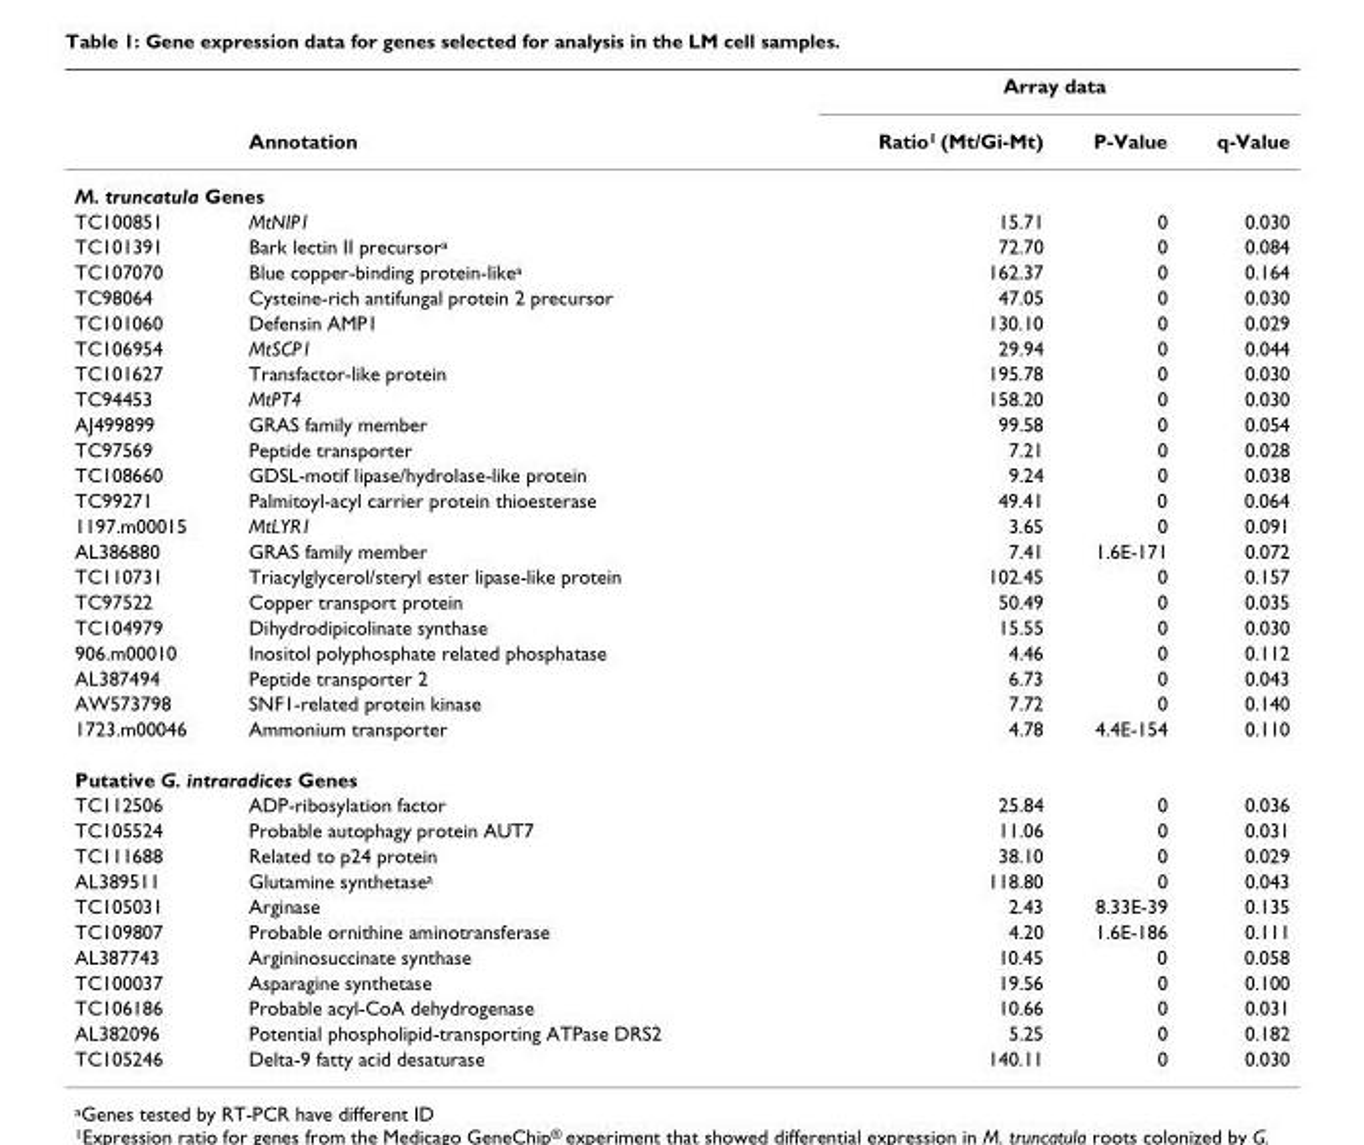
<table><thead><tr><td rowspan="2"></td><td rowspan="2">Annotation</td><td colspan="3">Array data</td></tr><tr><td>Ratio<sup>1</sup> (Mt/Gi-Mt)</td><td>P-Value</td><td>q-Value</td></tr></thead><tbody><tr><td colspan="5">M. truncatula Genes</td></tr><tr><td>TC100851</td><td>MtNIP1</td><td>15.71</td><td>0</td><td>0.030</td></tr><tr><td>TC101391</td><td>Bark lectin II precursor<sup>a</sup></td><td>72.70</td><td>0</td><td>0.084</td></tr><tr><td>TC107070</td><td>Blue copper-binding protein-like<sup>a</sup></td><td>162.37</td><td>0</td><td>0.164</td></tr><tr><td>TC98064</td><td>Cysteine-rich antifungal protein 2 precursor</td><td>47.05</td><td>0</td><td>0.030</td></tr><tr><td>TC101060</td><td>Defensin AMP1</td><td>130.10</td><td>0</td><td>0.029</td></tr><tr><td>TC106954</td><td>MtSCP1</td><td>29.94</td><td>0</td><td>0.044</td></tr><tr><td>TC101627</td><td>Transfactor-like protein</td><td>195.78</td><td>0</td><td>0.030</td></tr><tr><td>TC94453</td><td>MtPT4</td><td>158.20</td><td>0</td><td>0.030</td></tr><tr><td>AJ499899</td><td>GRAS family member</td><td>99.58</td><td>0</td><td>0.054</td></tr><tr><td>TC97569</td><td>Peptide transporter</td><td>7.21</td><td>0</td><td>0.028</td></tr><tr><td>TC108660</td><td>GDSL-motif lipase/hydrolase-like protein</td><td>9.24</td><td>0</td><td>0.038</td></tr><tr><td>TC99271</td><td>Palmitoyl-acyl carrier protein thioesterase</td><td>49.41</td><td>0</td><td>0.064</td></tr><tr><td>1197.m00015</td><td>MtLYR1</td><td>3.65</td><td>0</td><td>0.091</td></tr><tr><td>AL386880</td><td>GRAS family member</td><td>7.41</td><td>1.6E-171</td><td>0.072</td></tr><tr><td>TC110731</td><td>Triacylglycerol/steryl ester lipase-like protein</td><td>102.45</td><td>0</td><td>0.157</td></tr><tr><td>TC97522</td><td>Copper transport protein</td><td>50.49</td><td>0</td><td>0.035</td></tr><tr><td>TC104979</td><td>Dihydrodipicolinate synthase</td><td>15.55</td><td>0</td><td>0.030</td></tr><tr><td>906.m00010</td><td>Inositol polyphosphate related phosphatase</td><td>4.46</td><td>0</td><td>0.112</td></tr><tr><td>AL387494</td><td>Peptide transporter 2</td><td>6.73</td><td>0</td><td>0.043</td></tr><tr><td>AW573798</td><td>SNF1-related protein kinase</td><td>7.72</td><td>0</td><td>0.140</td></tr><tr><td>1723.m00046</td><td>Ammonium transporter</td><td>4.78</td><td>4.4E-154</td><td>0.110</td></tr><tr><td colspan="5">Putative G. intraradices Genes</td></tr><tr><td>TC112506</td><td>ADP-ribosylation factor</td><td>25.84</td><td>0</td><td>0.036</td></tr><tr><td>TC105524</td><td>Probable autophagy protein AUT7</td><td>11.06</td><td>0</td><td>0.031</td></tr><tr><td>TC111688</td><td>Related to p24 protein</td><td>38.10</td><td>0</td><td>0.029</td></tr><tr><td>AL389511</td><td>Glutamine synthetase<sup>a</sup></td><td>118.80</td><td>0</td><td>0.043</td></tr><tr><td>TC105031</td><td>Arginase</td><td>2.43</td><td>8.33E-39</td><td>0.135</td></tr><tr><td>TC109807</td><td>Probable ornithine aminotransferase</td><td>4.20</td><td>1.6E-186</td><td>0.111</td></tr><tr><td>AL387743</td><td>Argininosuccinate synthase</td><td>10.45</td><td>0</td><td>0.058</td></tr><tr><td>TC100037</td><td>Asparagine synthetase</td><td>19.56</td><td>0</td><td>0.100</td></tr><tr><td>TC106186</td><td>Probable acyl-CoA dehydrogenase</td><td>10.66</td><td>0</td><td>0.031</td></tr><tr><td>AL382096</td><td>Potential phospholipid-transporting ATPase DRS2</td><td>5.25</td><td>0</td><td>0.182</td></tr><tr><td>TC105246</td><td>Delta-9 fatty acid desaturase</td><td>140.11</td><td>0</td><td>0.030</td></tr></tbody></table>